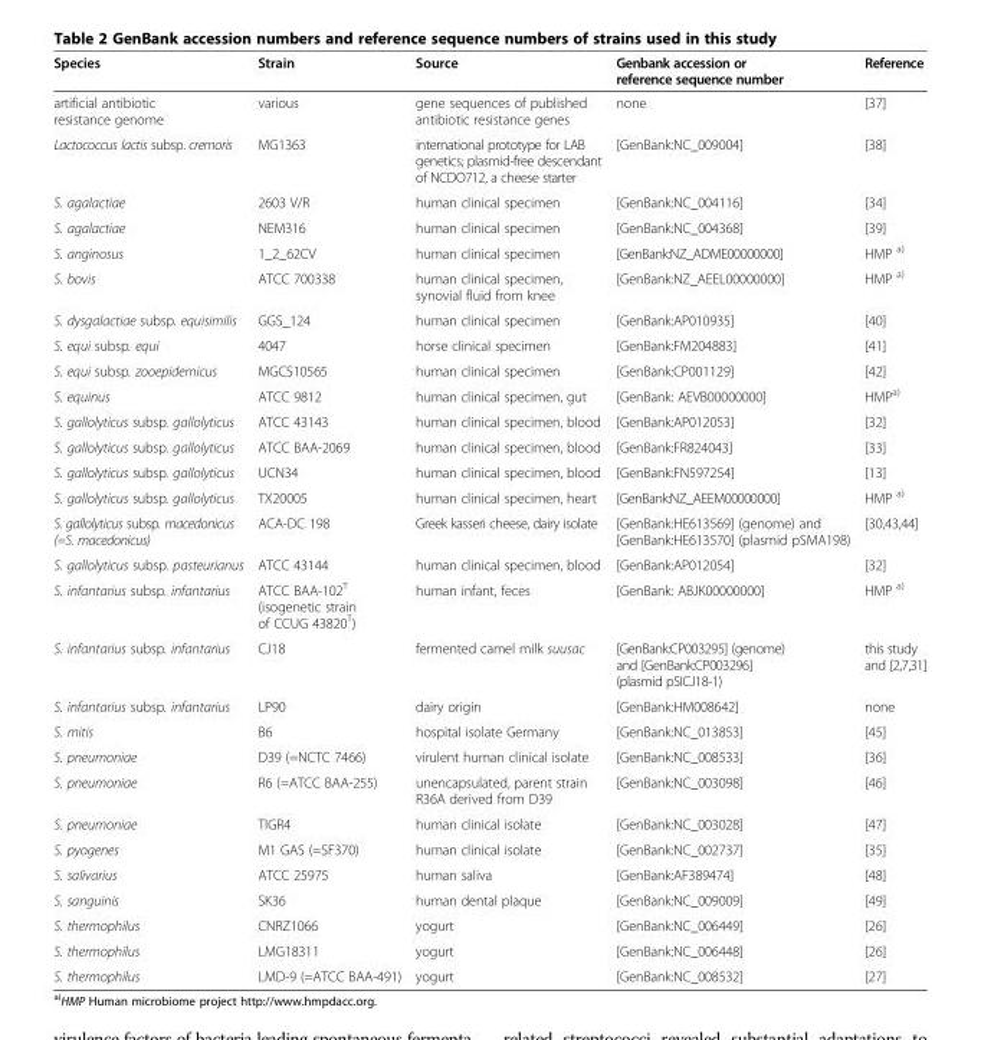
<table><thead><tr><td>Species</td><td>Strain</td><td>Source</td><td>Genbank accession or reference sequence number</td><td>Reference</td></tr></thead><tbody><tr><td>artificial antibiotic resistance genome</td><td>various</td><td>gene sequences of published antibiotic resistance genes</td><td>none</td><td>[37]</td></tr><tr><td>Lactococcus lactis subsp. cremoris</td><td>MG1363</td><td>international prototype for LAB genetics; plasmid-free descendant of NCDO712, a cheese starter</td><td>[GenBank:NC_009004]</td><td>[38]</td></tr><tr><td>S. agalactiae</td><td>2603 V/R</td><td>human clinical specimen</td><td>[GenBank:NC_004116]</td><td>[34]</td></tr><tr><td>S. agalactiae</td><td>NEM316</td><td>human clinical specimen</td><td>[GenBank:NC_004368]</td><td>[39]</td></tr><tr><td>S. anginosus</td><td>1_2_62CV</td><td>human clinical specimen</td><td>[GenBank:NZ_ADME00000000]</td><td>HMP <sup>a)</sup></td></tr><tr><td>S. bovis</td><td>ATCC 700338</td><td>human clinical specimen, synovial fluid from knee</td><td>[GenBank:NZ_AEEL00000000]</td><td>HMP <sup>a)</sup></td></tr><tr><td>S. dysgalactiae subsp. equisimilis</td><td>GGS_124</td><td>human clinical specimen</td><td>[GenBank:AP010935]</td><td>[40]</td></tr><tr><td>S. equi subsp. equi</td><td>4047</td><td>horse clinical specimen</td><td>[GenBank:FM204883]</td><td>[41]</td></tr><tr><td>S. equi subsp. zooepidemicus</td><td>MGCS10565</td><td>human clinical specimen</td><td>[GenBank:CP001129]</td><td>[42]</td></tr><tr><td>S. equinus</td><td>ATCC 9812</td><td>human clinical specimen, gut</td><td>[GenBank: AEVB00000000]</td><td>HMP<sup>a)</sup></td></tr><tr><td>S. gallolyticus subsp. gallolyticus</td><td>ATCC 43143</td><td>human clinical specimen, blood</td><td>[GenBank:AP012053]</td><td>[32]</td></tr><tr><td>S. gallolyticus subsp. gallolyticus</td><td>ATCC BAA-2069</td><td>human clinical specimen, blood</td><td>[GenBank:FR824043]</td><td>[33]</td></tr><tr><td>S. gallolyticus subsp. gallolyticus</td><td>UCN34</td><td>human clinical specimen, blood</td><td>[GenBank:FN597254]</td><td>[13]</td></tr><tr><td>S. gallolyticus subsp. gallolyticus</td><td>TX20005</td><td>human clinical specimen, heart</td><td>[GenBank:NZ_AEEM00000000]</td><td>HMP <sup>a)</sup></td></tr><tr><td>S. gallolyticus subsp. macedonicus (=S. macedonicus)</td><td>ACA-DC 198</td><td>Greek kasseri cheese, dairy isolate</td><td>[GenBank:HE613569] (genome) and [GenBank:HE613570] (plasmid pSMA198)</td><td>[30,43,44]</td></tr><tr><td>S. gallolyticus subsp. pasteurianus</td><td>ATCC 43144</td><td>human clinical specimen, blood</td><td>[GenBank:AP012054]</td><td>[32]</td></tr><tr><td>S. infantarius subsp. infantarius</td><td>ATCC BAA-102<sup>T</sup> (isogenetic strain of CCUG 43820<sup>T</sup>)</td><td>human infant, feces</td><td>[GenBank: ABJK00000000]</td><td>HMP <sup>a)</sup></td></tr><tr><td>S. infantarius subsp. infantarius</td><td>CJ18</td><td>fermented camel milk suusac</td><td>[GenBank:CP003295] (genome) and [GenBank:CP003296] (plasmid pSICJ18-1)</td><td>this study and [2,7,31]</td></tr><tr><td>S. infantarius subsp. infantarius</td><td>LP90</td><td>dairy origin</td><td>[GenBank:HM008642]</td><td>none</td></tr><tr><td>S. mitis</td><td>B6</td><td>hospital isolate Germany</td><td>[GenBank:NC_013853]</td><td>[45]</td></tr><tr><td>S. pneumoniae</td><td>D39 (=NCTC 7466)</td><td>virulent human clinical isolate</td><td>[GenBank:NC_008533]</td><td>[36]</td></tr><tr><td>S. pneumoniae</td><td>R6 (=ATCC BAA-255)</td><td>unencapsulated, parent strain R36A derived from D39</td><td>[GenBank:NC_003098]</td><td>[46]</td></tr><tr><td>S. pneumoniae</td><td>TIGR4</td><td>human clinical isolate</td><td>[GenBank:NC_003028]</td><td>[47]</td></tr><tr><td>S. pyogenes</td><td>M1 GAS (=SF370)</td><td>human clinical isolate</td><td>[GenBank:NC_002737]</td><td>[35]</td></tr><tr><td>S. salivarius</td><td>ATCC 25975</td><td>human saliva</td><td>[GenBank:AF389474]</td><td>[48]</td></tr><tr><td>S. sanguinis</td><td>SK36</td><td>human dental plaque</td><td>[GenBank:NC_009009]</td><td>[49]</td></tr><tr><td>S. thermophilus</td><td>CNRZ1066</td><td>yogurt</td><td>[GenBank:NC_006449]</td><td>[26]</td></tr><tr><td>S. thermophilus</td><td>LMG18311</td><td>yogurt</td><td>[GenBank:NC_006448]</td><td>[26]</td></tr><tr><td>S. thermophilus</td><td>LMD-9 (=ATCC BAA-491)</td><td>yogurt</td><td>[GenBank:NC_008532]</td><td>[27]</td></tr></tbody></table>